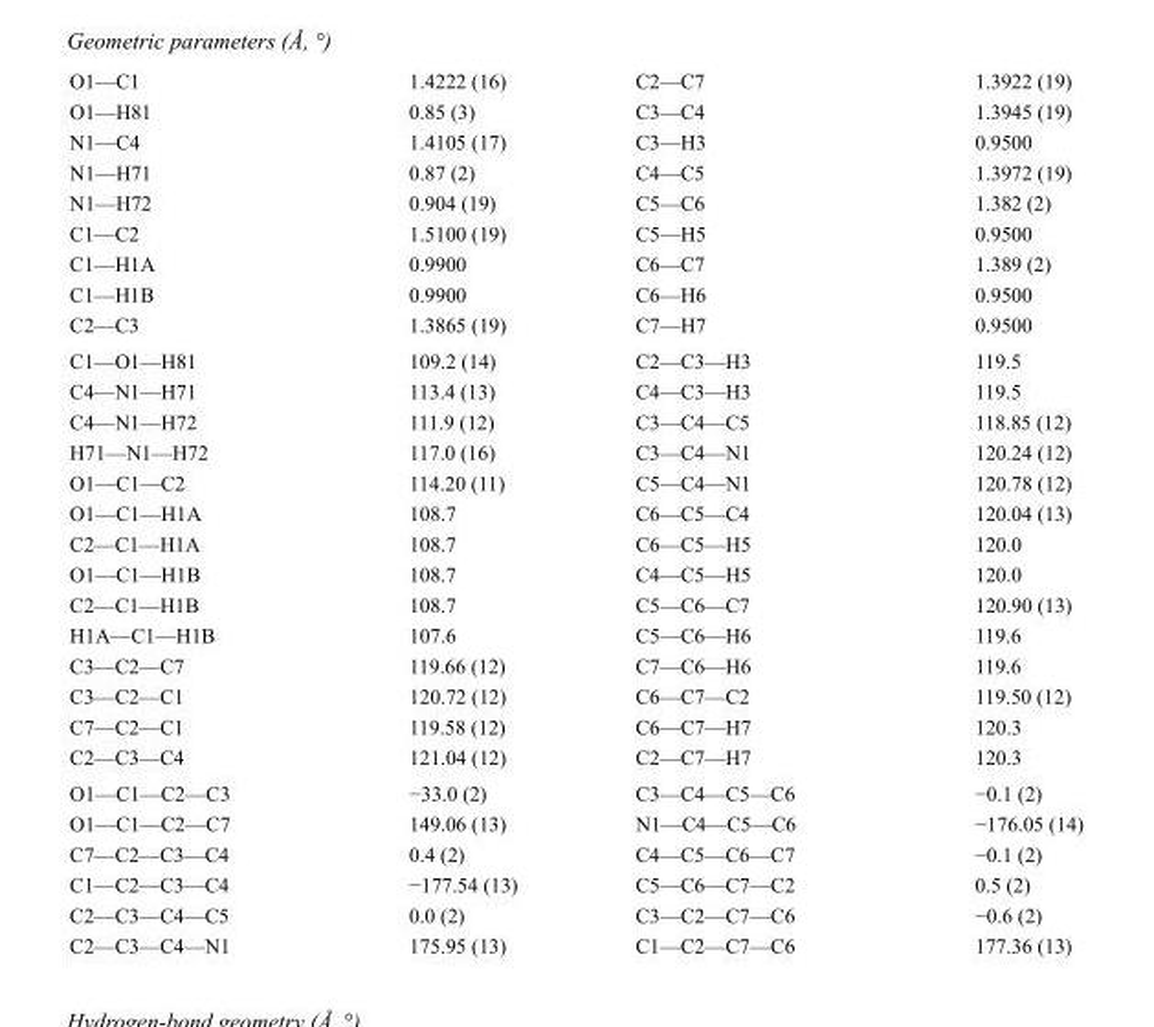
<table><tbody><tr><td>O1—C1</td><td>1.4222 (16)</td><td>C2—C7</td><td>1.3922 (19)</td></tr><tr><td>O1—H81</td><td>0.85 (3)</td><td>C3—C4</td><td>1.3945 (19)</td></tr><tr><td>N1—C4</td><td>1.4105 (17)</td><td>C3—H3</td><td>0.9500</td></tr><tr><td>N1—H71</td><td>0.87 (2)</td><td>C4—C5</td><td>1.3972 (19)</td></tr><tr><td>N1—H72</td><td>0.904 (19)</td><td>C5—C6</td><td>1.382 (2)</td></tr><tr><td>C1—C2</td><td>1.5100 (19)</td><td>C5—H5</td><td>0.9500</td></tr><tr><td>C1—H1A</td><td>0.9900</td><td>C6—C7</td><td>1.389 (2)</td></tr><tr><td>C1—H1B</td><td>0.9900</td><td>C6—H6</td><td>0.9500</td></tr><tr><td>C2—C3</td><td>1.3865 (19)</td><td>C7—H7</td><td>0.9500</td></tr><tr><td>C1—O1—H81</td><td>109.2 (14)</td><td>C2—C3—H3</td><td>119.5</td></tr><tr><td>C4—N1—H71</td><td>113.4 (13)</td><td>C4—C3—H3</td><td>119.5</td></tr><tr><td>C4—N1—H72</td><td>111.9 (12)</td><td>C3—C4—C5</td><td>118.85 (12)</td></tr><tr><td>H71—N1—H72</td><td>117.0 (16)</td><td>C3—C4—N1</td><td>120.24 (12)</td></tr><tr><td>O1—C1—C2</td><td>114.20 (11)</td><td>C5—C4—N1</td><td>120.78 (12)</td></tr><tr><td>O1—C1—H1A</td><td>108.7</td><td>C6—C5—C4</td><td>120.04 (13)</td></tr><tr><td>C2—C1—H1A</td><td>108.7</td><td>C6—C5—H5</td><td>120.0</td></tr><tr><td>O1—C1—H1B</td><td>108.7</td><td>C4—C5—H5</td><td>120.0</td></tr><tr><td>C2—C1—H1B</td><td>108.7</td><td>C5—C6—C7</td><td>120.90 (13)</td></tr><tr><td>H1A—C1—H1B</td><td>107.6</td><td>C5—C6—H6</td><td>119.6</td></tr><tr><td>C3—C2—C7</td><td>119.66 (12)</td><td>C7—C6—H6</td><td>119.6</td></tr><tr><td>C3—C2—C1</td><td>120.72 (12)</td><td>C6—C7—C2</td><td>119.50 (12)</td></tr><tr><td>C7—C2—C1</td><td>119.58 (12)</td><td>C6—C7—H7</td><td>120.3</td></tr><tr><td>C2—C3—C4</td><td>121.04 (12)</td><td>C2—C7—H7</td><td>120.3</td></tr><tr><td>O1—C1—C2—C3</td><td>−33.0 (2)</td><td>C3—C4—C5—C6</td><td>−0.1 (2)</td></tr><tr><td>O1—C1—C2—C7</td><td>149.06 (13)</td><td>N1—C4—C5—C6</td><td>−176.05 (14)</td></tr><tr><td>C7—C2—C3—C4</td><td>0.4 (2)</td><td>C4—C5—C6—C7</td><td>−0.1 (2)</td></tr><tr><td>C1—C2—C3—C4</td><td>−177.54 (13)</td><td>C5—C6—C7—C2</td><td>0.5 (2)</td></tr><tr><td>C2—C3—C4—C5</td><td>0.0 (2)</td><td>C3—C2—C7—C6</td><td>−0.6 (2)</td></tr><tr><td>C2—C3—C4—N1</td><td>175.95 (13)</td><td>C1—C2—C7—C6</td><td>177.36 (13)</td></tr></tbody></table>